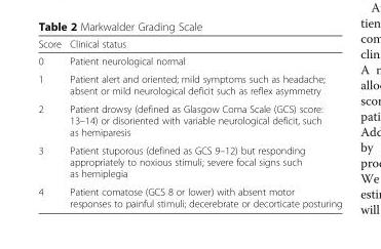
<table><thead><tr><td>Score</td><td>Clinical status</td></tr></thead><tbody><tr><td>0</td><td>Patient neurological normal</td></tr><tr><td>1</td><td>Patient alert and oriented; mild symptoms such as headache; absent or mild neurological deficit such as reflex asymmetry</td></tr><tr><td>2</td><td>Patient drowsy (defined as Glasgow Coma Scale (GCS) score: 13–14) or disoriented with variable neurological deficit, such as hemiparesis</td></tr><tr><td>3</td><td>Patient stuporous (defined as GCS 9–12) but responding appropriately to noxious stimuli; severe focal signs such as hemiplegia</td></tr><tr><td>4</td><td>Patient comatose (GCS 8 or lower) with absent motor responses to painful stimuli; decerebrate or decorticate posturing</td></tr></tbody></table>